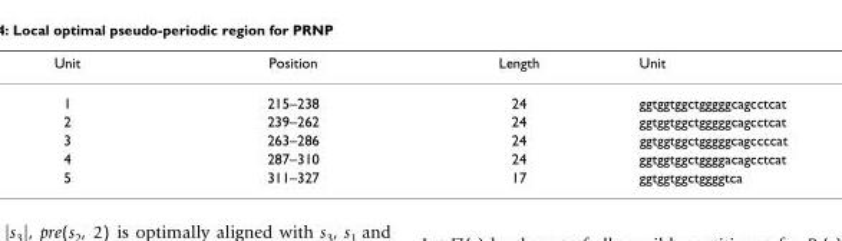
<table><thead><tr><td>Unit</td><td>Position</td><td>Length</td><td>Unit</td></tr></thead><tbody><tr><td>1</td><td>215–238</td><td>24</td><td>ggtggtggctgggggcagcctcat</td></tr><tr><td>2</td><td>239–262</td><td>24</td><td>ggtggtggctgggggcagcctcat</td></tr><tr><td>3</td><td>263–286</td><td>24</td><td>ggtggtggctgggggcagccccat</td></tr><tr><td>4</td><td>287–310</td><td>24</td><td>ggtggtggctggggacagcctcat</td></tr><tr><td>5</td><td>311–327</td><td>17</td><td>ggtggtggctggggtca</td></tr></tbody></table>